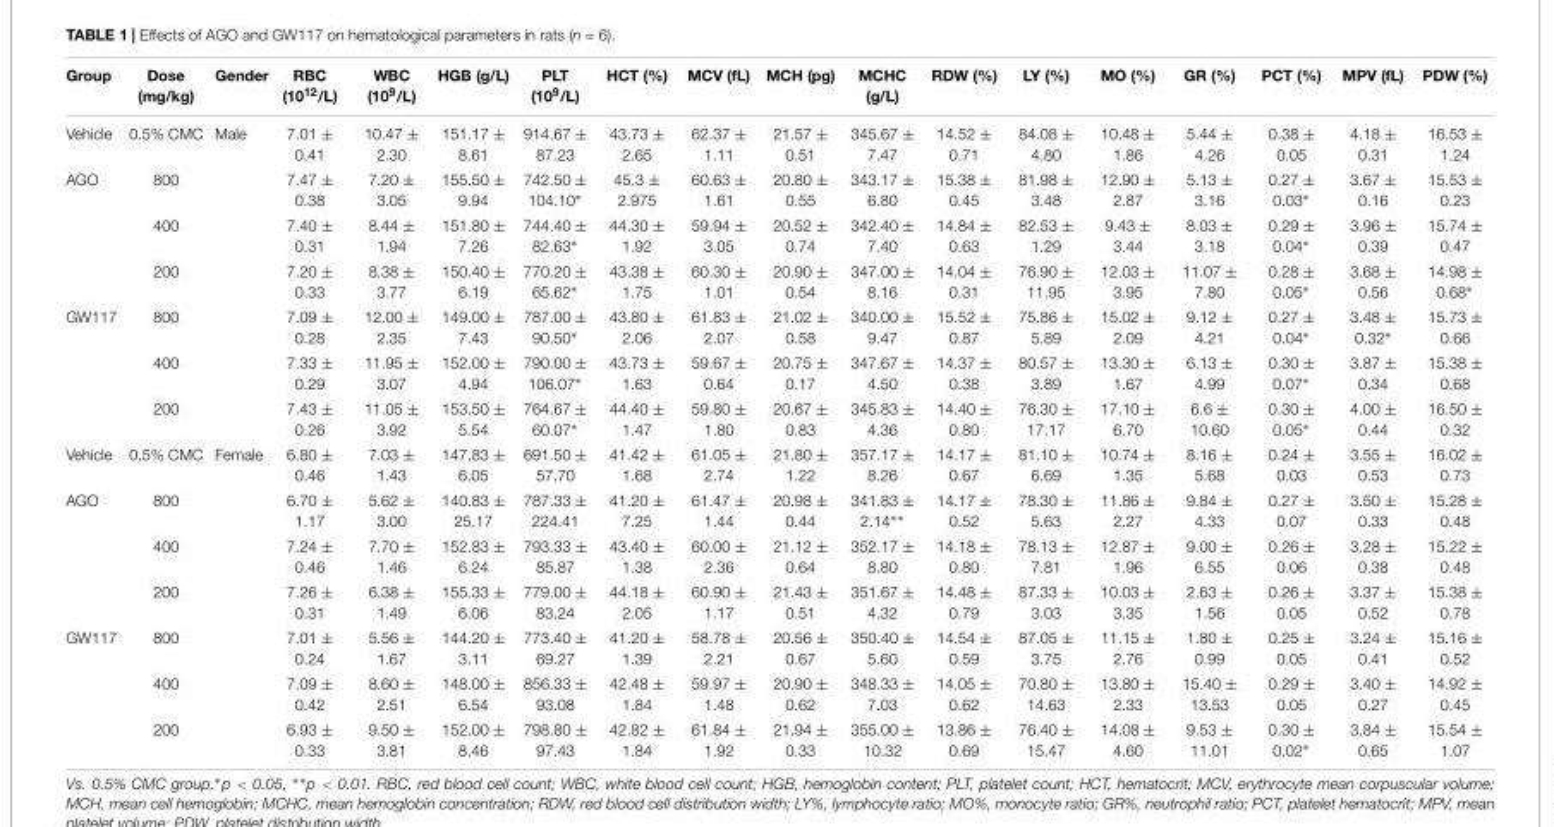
<table><thead><tr><td>Group</td><td>Dose (mg/kg)</td><td>Gender</td><td>RBC (10<sup>12</sup>/L)</td><td>WBC (10<sup>9</sup>/L)</td><td>HGB (g/L)</td><td>PLT (10<sup>9</sup>/L)</td><td>HCT (%)</td><td>MCV (fL)</td><td>MCH (pg)</td><td>MCHC (g/L)</td><td>RDW (%)</td><td>LY (%)</td><td>MO (%)</td><td>GR (%)</td><td>PCT (%)</td><td>MPV (fL)</td><td>PDW (%)</td></tr></thead><tbody><tr><td>Vehicle</td><td>0.5% CMC</td><td>Male</td><td>7.01 ± 0.41</td><td>10.47 ± 2.30</td><td>151.17 ± 8.61</td><td>914.67 ± 87.23</td><td>43.73 ± 2.65</td><td>62.37 ± 1.11</td><td>21.57 ± 0.51</td><td>345.67 ± 7.47</td><td>14.52 ± 0.71</td><td>84.08 ± 4.80</td><td>10.48 ± 1.86</td><td>5.44 ± 4.26</td><td>0.38 ± 0.05</td><td>4.18 ± 0.31</td><td>16.53 ± 1.24</td></tr><tr><td rowspan="3">AGO</td><td>800</td><td></td><td>7.47 ± 0.38</td><td>7.20 ± 3.05</td><td>155.50 ± 9.94</td><td>742.50 ± 104.10∗</td><td>45.3 ± 2.975</td><td>60.63 ± 1.61</td><td>20.80 ± 0.55</td><td>343.17 ± 6.80</td><td>15.38 ± 0.45</td><td>81.98 ± 3.48</td><td>12.90 ± 2.87</td><td>5.13 ± 3.16</td><td>0.27 ± 0.03∗</td><td>3.67 ± 0.16</td><td>15.53 ± 0.23</td></tr><tr><td>400</td><td></td><td>7.40 ± 0.31</td><td>8.44 ± 1.94</td><td>151.80 ± 7.26</td><td>744.40 ± 82.63∗</td><td>44.30 ± 1.92</td><td>59.94 ± 3.05</td><td>20.52 ± 0.74</td><td>342.40 ± 7.40</td><td>14.84 ± 0.63</td><td>82.53 ± 1.29</td><td>9.43 ± 3.44</td><td>8.03 ± 3.18</td><td>0.29 ± 0.04∗</td><td>3.96 ± 0.39</td><td>15.74 ± 0.47</td></tr><tr><td>200</td><td></td><td>7.20 ± 0.33</td><td>8.38 ± 3.77</td><td>150.40 ± 6.19</td><td>770.20 ± 65.62∗</td><td>43.38 ± 1.75</td><td>60.30 ± 1.01</td><td>20.90 ± 0.54</td><td>347.00 ± 8.16</td><td>14.04 ± 0.31</td><td>76.90 ± 11.95</td><td>12.03 ± 3.95</td><td>11.07 ± 7.80</td><td>0.28 ± 0.05∗</td><td>3.68 ± 0.56</td><td>14.98 ± 0.68∗</td></tr><tr><td rowspan="3">GW117</td><td>800</td><td></td><td>7.09 ± 0.28</td><td>12.00 ± 2.35</td><td>149.00 ± 7.43</td><td>787.00 ± 90.50∗</td><td>43.80 ± 2.06</td><td>61.83 ± 2.07</td><td>21.02 ± 0.58</td><td>340.00 ± 9.47</td><td>15.52 ± 0.87</td><td>75.86 ± 5.89</td><td>15.02 ± 2.09</td><td>9.12 ± 4.21</td><td>0.27 ± 0.04∗</td><td>3.48 ± 0.32∗</td><td>15.73 ± 0.66</td></tr><tr><td>400</td><td></td><td>7.33 ± 0.29</td><td>11.95 ± 3.07</td><td>152.00 ± 4.94</td><td>790.00 ± 106.07∗</td><td>43.73 ± 1.63</td><td>59.67 ± 0.64</td><td>20.75 ± 0.17</td><td>347.67 ± 4.50</td><td>14.37 ± 0.38</td><td>80.57 ± 3.89</td><td>13.30 ± 1.67</td><td>6.13 ± 4.99</td><td>0.30 ± 0.07∗</td><td>3.87 ± 0.34</td><td>15.38 ± 0.68</td></tr><tr><td>200</td><td></td><td>7.43 ± 0.26</td><td>11.05 ± 3.92</td><td>153.50 ± 5.54</td><td>764.67 ± 60.07∗</td><td>44.40 ± 1.47</td><td>59.80 ± 1.80</td><td>20.67 ± 0.83</td><td>345.83 ± 4.36</td><td>14.40 ± 0.80</td><td>76.30 ± 17.17</td><td>17.10 ± 6.70</td><td>6.6 ± 10.60</td><td>0.30 ± 0.05∗</td><td>4.00 ± 0.44</td><td>16.50 ± 0.32</td></tr><tr><td>Vehicle</td><td>0.5% CMC</td><td>Female</td><td>6.80 ± 0.46</td><td>7.03 ± 1.43</td><td>147.83 ± 6.05</td><td>691.50 ± 57.70</td><td>41.42 ± 1.68</td><td>61.05 ± 2.74</td><td>21.80 ± 1.22</td><td>357.17 ± 8.26</td><td>14.17 ± 0.67</td><td>81.10 ± 6.69</td><td>10.74 ± 1.35</td><td>8.16 ± 5.68</td><td>0.24 ± 0.03</td><td>3.55 ± 0.53</td><td>16.02 ± 0.73</td></tr><tr><td rowspan="3">AGO</td><td>800</td><td></td><td>6.70 ± 1.17</td><td>5.62 ± 3.00</td><td>140.83 ± 25.17</td><td>787.33 ± 224.41</td><td>41.20 ± 7.25</td><td>61.47 ± 1.44</td><td>20.98 ± 0.44</td><td>341.83 ± 2.14∗∗</td><td>14.17 ± 0.52</td><td>78.30 ± 5.63</td><td>11.86 ± 2.27</td><td>9.84 ± 4.33</td><td>0.27 ± 0.07</td><td>3.50 ± 0.33</td><td>15.28 ± 0.48</td></tr><tr><td>400</td><td></td><td>7.24 ± 0.46</td><td>7.70 ± 1.46</td><td>152.83 ± 6.24</td><td>793.33 ± 85.87</td><td>43.40 ± 1.38</td><td>60.00 ± 2.36</td><td>21.12 ± 0.64</td><td>352.17 ± 8.80</td><td>14.18 ± 0.80</td><td>78.13 ± 7.81</td><td>12.87 ± 1.96</td><td>9.00 ± 6.55</td><td>0.26 ± 0.06</td><td>3.28 ± 0.38</td><td>15.22 ± 0.48</td></tr><tr><td>200</td><td></td><td>7.26 ± 0.31</td><td>6.38 ± 1.49</td><td>155.33 ± 6.06</td><td>779.00 ± 83.24</td><td>44.18 ± 2.05</td><td>60.90 ± 1.17</td><td>21.43 ± 0.51</td><td>351.67 ± 4.32</td><td>14.48 ± 0.79</td><td>87.33 ± 3.03</td><td>10.03 ± 3.35</td><td>2.63 ± 1.56</td><td>0.26 ± 0.05</td><td>3.37 ± 0.52</td><td>15.38 ± 0.78</td></tr><tr><td rowspan="3">GW117</td><td>800</td><td></td><td>7.01 ± 0.24</td><td>5.56 ± 1.67</td><td>144.20 ± 3.11</td><td>773.40 ± 69.27</td><td>41.20 ± 1.39</td><td>58.78 ± 2.21</td><td>20.56 ± 0.67</td><td>350.40 ± 5.60</td><td>14.54 ± 0.59</td><td>87.05 ± 3.75</td><td>11.15 ± 2.76</td><td>1.80 ± 0.99</td><td>0.25 ± 0.05</td><td>3.24 ± 0.41</td><td>15.16 ± 0.52</td></tr><tr><td>400</td><td></td><td>7.09 ± 0.42</td><td>8.60 ± 2.51</td><td>148.00 ± 6.54</td><td>856.33 ± 93.08</td><td>42.48 ± 1.84</td><td>59.97 ± 1.48</td><td>20.90 ± 0.62</td><td>348.33 ± 7.03</td><td>14.05 ± 0.62</td><td>70.80 ± 14.63</td><td>13.80 ± 2.33</td><td>15.40 ± 13.53</td><td>0.29 ± 0.05</td><td>3.40 ± 0.27</td><td>14.92 ± 0.45</td></tr><tr><td>200</td><td></td><td>6.93 ± 0.33</td><td>9.50 ± 3.81</td><td>152.00 ± 8.46</td><td>798.80 ± 97.43</td><td>42.82 ± 1.84</td><td>61.84 ± 1.92</td><td>21.94 ± 0.33</td><td>355.00 ± 10.32</td><td>13.86 ± 0.69</td><td>76.40 ± 15.47</td><td>14.08 ± 4.60</td><td>9.53 ± 11.01</td><td>0.30 ± 0.02∗</td><td>3.84 ± 0.65</td><td>15.54 ± 1.07</td></tr></tbody></table>